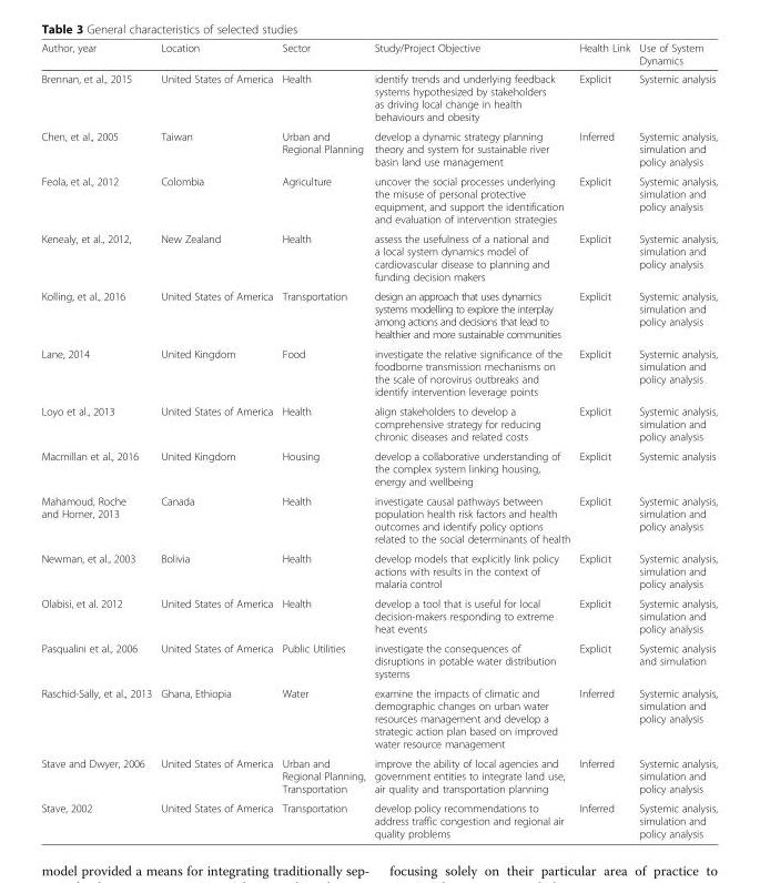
<table><thead><tr><td>Author, year</td><td>Location</td><td>Sector</td><td>Study/Project Objective</td><td>Health Link</td><td>Use of System Dynamics</td></tr></thead><tbody><tr><td>Brennan, et al., 2015</td><td>United States of America</td><td>Health</td><td>identify trends and underlying feedback systems hypothesized by stakeholders as driving local change in health behaviours and obesity</td><td>Explicit</td><td>Systemic analysis</td></tr><tr><td>Chen, et al., 2005</td><td>Taiwan</td><td>Urban and Regional Planning</td><td>develop a dynamic strategy planning theory and system for sustainable river basin land use management</td><td>Inferred</td><td>Systemic analysis, simulation and policy analysis</td></tr><tr><td>Feola, et al., 2012</td><td>Colombia</td><td>Agriculture</td><td>uncover the social processes underlying the misuse of personal protective equipment, and support the identification and evaluation of intervention strategies</td><td>Explicit</td><td>Systemic analysis, simulation and policy analysis</td></tr><tr><td>Kenealy, et al., 2012,</td><td>New Zealand</td><td>Health</td><td>assess the usefulness of a national and a local system dynamics model of cardiovascular disease to planning and funding decision makers</td><td>Explicit</td><td>Systemic analysis, simulation and policy analysis</td></tr><tr><td>Kolling, et al., 2016</td><td>United States of America</td><td>Transportation</td><td>design an approach that uses dynamics systems modelling to explore the interplay among actions and decisions that lead to healthier and more sustainable communities</td><td>Explicit</td><td>Systemic analysis, simulation and policy analysis</td></tr><tr><td>Lane, 2014</td><td>United Kingdom</td><td>Food</td><td>investigate the relative significance of the foodborne transmission mechanisms on the scale of norovirus outbreaks and identify intervention leverage points</td><td>Explicit</td><td>Systemic analysis, simulation and policy analysis</td></tr><tr><td>Loyo et al., 2013</td><td>United States of America</td><td>Health</td><td>align stakeholders to develop a comprehensive strategy for reducing chronic diseases and related costs</td><td>Explicit</td><td>Systemic analysis, simulation and policy analysis</td></tr><tr><td>Macmillan et al., 2016</td><td>United Kingdom</td><td>Housing</td><td>develop a collaborative understanding of the complex system linking housing, energy and wellbeing</td><td>Explicit</td><td>Systemic analysis</td></tr><tr><td>Mahamoud, Roche and Homer, 2013</td><td>Canada</td><td>Health</td><td>investigate causal pathways between population health risk factors and health outcomes and identify policy options related to the social determinants of health</td><td>Explicit</td><td>Systemic analysis, simulation and policy analysis</td></tr><tr><td>Newman, et al., 2003</td><td>Bolivia</td><td>Health</td><td>develop models that explicitly link policy actions with results in the context of malaria control</td><td>Explicit</td><td>Systemic analysis, simulation and policy analysis</td></tr><tr><td>Olabisi, et al. 2012</td><td>United States of America</td><td>Health</td><td>develop a tool that is useful for local decision-makers responding to extreme heat events</td><td>Explicit</td><td>Systemic analysis, simulation and policy analysis</td></tr><tr><td>Pasqualini et al., 2006</td><td>United States of America</td><td>Public Utilities</td><td>investigate the consequences of disruptions in potable water distribution systems</td><td>Explicit</td><td>Systemic analysis and simulation</td></tr><tr><td>Raschid-Sally, et al., 2013</td><td>Ghana, Ethiopia</td><td>Water</td><td>examine the impacts of climatic and demographic changes on urban water resources management and develop a strategic action plan based on improved water resource management</td><td>Inferred</td><td>Systemic analysis, simulation and policy analysis</td></tr><tr><td>Stave and Dwyer, 2006</td><td>United States of America</td><td>Urban and Regional Planning, Transportation</td><td>improve the ability of local agencies and government entities to integrate land use, air quality and transportation planning</td><td>Inferred</td><td>Systemic analysis, simulation and policy analysis</td></tr><tr><td>Stave, 2002</td><td>United States of America</td><td>Transportation</td><td>develop policy recommendations to address traffic congestion and regional air quality problems</td><td>Inferred</td><td>Systemic analysis, simulation and policy analysis</td></tr></tbody></table>